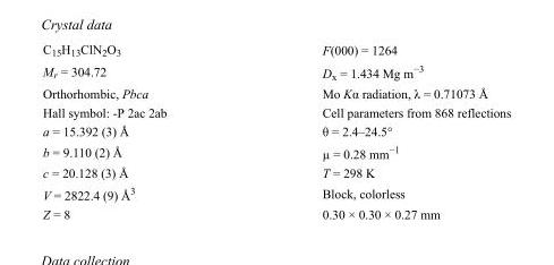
<table><tbody><tr><td>C<sub>15</sub>H<sub>13</sub>ClN<sub>2</sub>O<sub>3</sub></td><td>F(000) = 1264</td></tr><tr><td>M<sub>r</sub> = 304.72</td><td>D<sub>x</sub> = 1.434 Mg m<sup>−3</sup></td></tr><tr><td>Orthorhombic, Pbca</td><td>Mo Kα radiation, λ = 0.71073 Å</td></tr><tr><td>Hall symbol: -P 2ac 2ab</td><td>Cell parameters from 868 reflections</td></tr><tr><td>a = 15.392 (3) Å</td><td>θ = 2.4–24.5°</td></tr><tr><td>b = 9.110 (2) Å</td><td>µ = 0.28 mm<sup>−1</sup></td></tr><tr><td>c = 20.128 (3) Å</td><td>T = 298 K</td></tr><tr><td>V = 2822.4 (9) Å<sup>3</sup></td><td>Block, colorless</td></tr><tr><td>Z = 8</td><td>0.30 × 0.30 × 0.27 mm</td></tr></tbody></table>